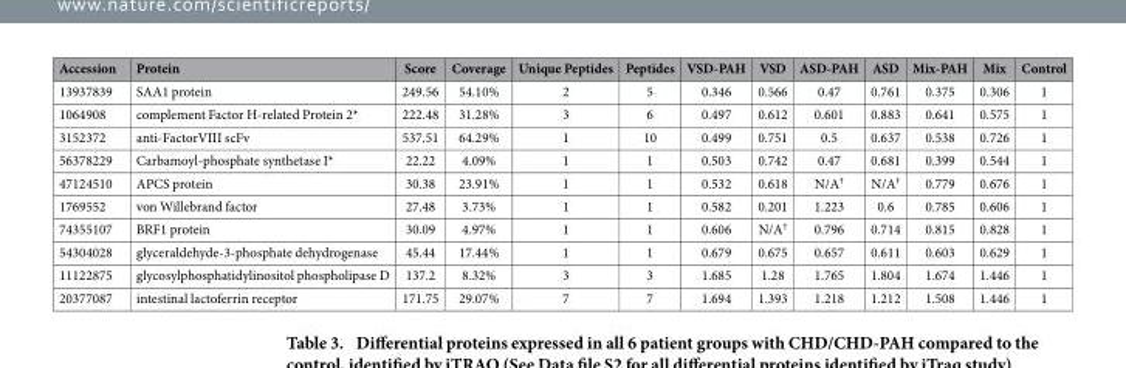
<table><thead><tr><td>Accession</td><td>Protein</td><td>Score</td><td>Coverage</td><td>Unique Peptides</td><td>Peptides</td><td>VSD-PAH</td><td>VSD</td><td>ASD-PAH</td><td>ASD</td><td>Mix-PAH</td><td>Mix</td><td>Control</td></tr></thead><tbody><tr><td>13937839</td><td>SAA1 protein</td><td>249.56</td><td>54.10%</td><td>2</td><td>5</td><td>0.346</td><td>0.566</td><td>0.47</td><td>0.761</td><td>0.375</td><td>0.306</td><td>1</td></tr><tr><td>1064908</td><td>complement Factor H-related Protein 2*</td><td>222.48</td><td>31.28%</td><td>3</td><td>6</td><td>0.497</td><td>0.612</td><td>0.601</td><td>0.883</td><td>0.641</td><td>0.575</td><td>1</td></tr><tr><td>3152372</td><td>anti-FactorVIII scFv</td><td>537.51</td><td>64.29%</td><td>1</td><td>10</td><td>0.499</td><td>0.751</td><td>0.5</td><td>0.637</td><td>0.538</td><td>0.726</td><td>1</td></tr><tr><td>56378229</td><td>Carbamoyl-phosphate synthetase I*</td><td>22.22</td><td>4.09%</td><td>1</td><td>1</td><td>0.503</td><td>0.742</td><td>0.47</td><td>0.681</td><td>0.399</td><td>0.544</td><td>1</td></tr><tr><td>47124510</td><td>APCS protein</td><td>30.38</td><td>23.91%</td><td>1</td><td>1</td><td>0.532</td><td>0.618</td><td>N/A†</td><td>N/A†</td><td>0.779</td><td>0.676</td><td>1</td></tr><tr><td>1769552</td><td>von Willebrand factor</td><td>27.48</td><td>3.73%</td><td>1</td><td>1</td><td>0.582</td><td>0.201</td><td>1.223</td><td>0.6</td><td>0.785</td><td>0.606</td><td>1</td></tr><tr><td>74355107</td><td>BRF1 protein</td><td>30.09</td><td>4.97%</td><td>1</td><td>1</td><td>0.606</td><td>N/A†</td><td>0.796</td><td>0.714</td><td>0.815</td><td>0.828</td><td>1</td></tr><tr><td>54304028</td><td>glyceraldehyde-3-phosphate dehydrogenase</td><td>45.44</td><td>17.44%</td><td>1</td><td>1</td><td>0.679</td><td>0.675</td><td>0.657</td><td>0.611</td><td>0.603</td><td>0.629</td><td>1</td></tr><tr><td>11122875</td><td>glycosylphosphatidylinositol phospholipase D</td><td>137.2</td><td>8.32%</td><td>3</td><td>3</td><td>1.685</td><td>1.28</td><td>1.765</td><td>1.804</td><td>1.674</td><td>1.446</td><td>1</td></tr><tr><td>20377087</td><td>intestinal lactoferrin receptor</td><td>171.75</td><td>29.07%</td><td>7</td><td>7</td><td>1.694</td><td>1.393</td><td>1.218</td><td>1.212</td><td>1.508</td><td>1.446</td><td>1</td></tr></tbody></table>